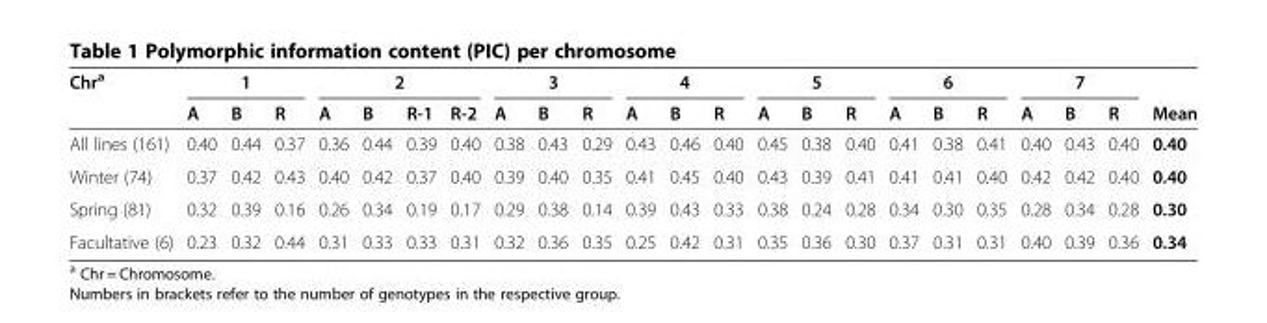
<table><thead><tr><td rowspan="2">Chr<sup>a</sup></td><td colspan="3">1</td><td colspan="4">2</td><td colspan="3">3</td><td colspan="3">4</td><td colspan="3">5</td><td colspan="3">6</td><td colspan="3">7</td><td rowspan="2">Mean</td></tr><tr><td>A</td><td>B</td><td>R</td><td>A</td><td>B</td><td>R-1</td><td>R-2</td><td>A</td><td>B</td><td>R</td><td>A</td><td>B</td><td>R</td><td>A</td><td>B</td><td>R</td><td>A</td><td>B</td><td>R</td><td>A</td><td>B</td><td>R</td></tr></thead><tbody><tr><td>All lines (161)</td><td>0.40</td><td>0.44</td><td>0.37</td><td>0.36</td><td>0.44</td><td>0.39</td><td>0.40</td><td>0.38</td><td>0.43</td><td>0.29</td><td>0.43</td><td>0.46</td><td>0.40</td><td>0.45</td><td>0.38</td><td>0.40</td><td>0.41</td><td>0.38</td><td>0.41</td><td>0.40</td><td>0.43</td><td>0.40</td><td>0.40</td></tr><tr><td>Winter (74)</td><td>0.37</td><td>0.42</td><td>0.43</td><td>0.40</td><td>0.42</td><td>0.37</td><td>0.40</td><td>0.39</td><td>0.40</td><td>0.35</td><td>0.41</td><td>0.45</td><td>0.40</td><td>0.43</td><td>0.39</td><td>0.41</td><td>0.41</td><td>0.41</td><td>0.40</td><td>0.42</td><td>0.42</td><td>0.40</td><td>0.40</td></tr><tr><td>Spring (81)</td><td>0.32</td><td>0.39</td><td>0.16</td><td>0.26</td><td>0.34</td><td>0.19</td><td>0.17</td><td>0.29</td><td>0.38</td><td>0.14</td><td>0.39</td><td>0.43</td><td>0.33</td><td>0.38</td><td>0.24</td><td>0.28</td><td>0.34</td><td>0.30</td><td>0.35</td><td>0.28</td><td>0.34</td><td>0.28</td><td>0.30</td></tr><tr><td>Facultative (6)</td><td>0.23</td><td>0.32</td><td>0.44</td><td>0.31</td><td>0.33</td><td>0.33</td><td>0.31</td><td>0.32</td><td>0.36</td><td>0.35</td><td>0.25</td><td>0.42</td><td>0.31</td><td>0.35</td><td>0.36</td><td>0.30</td><td>0.37</td><td>0.31</td><td>0.31</td><td>0.40</td><td>0.39</td><td>0.36</td><td>0.34</td></tr></tbody></table>